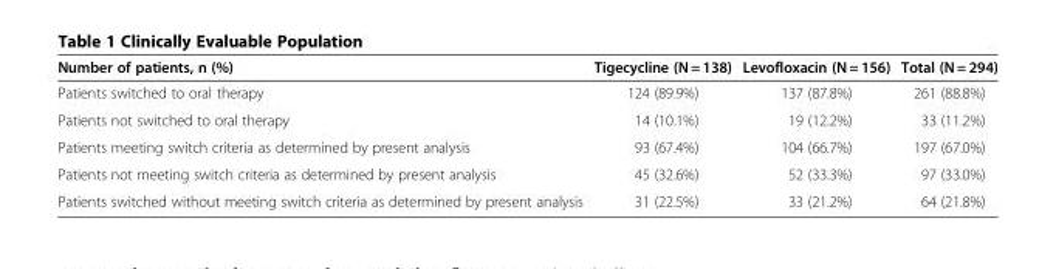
<table><thead><tr><td>Number of patients, n (%)</td><td>Tigecycline (N = 138)</td><td>Levofloxacin (N = 156)</td><td>Total (N = 294)</td></tr></thead><tbody><tr><td>Patients switched to oral therapy</td><td>124 (89.9%)</td><td>137 (87.8%)</td><td>261 (88.8%)</td></tr><tr><td>Patients not switched to oral therapy</td><td>14 (10.1%)</td><td>19 (12.2%)</td><td>33 (11.2%)</td></tr><tr><td>Patients meeting switch criteria as determined by present analysis</td><td>93 (67.4%)</td><td>104 (66.7%)</td><td>197 (67.0%)</td></tr><tr><td>Patients not meeting switch criteria as determined by present analysis</td><td>45 (32.6%)</td><td>52 (33.3%)</td><td>97 (33.0%)</td></tr><tr><td>Patients switched without meeting switch criteria as determined by present analysis</td><td>31 (22.5%)</td><td>33 (21.2%)</td><td>64 (21.8%)</td></tr></tbody></table>